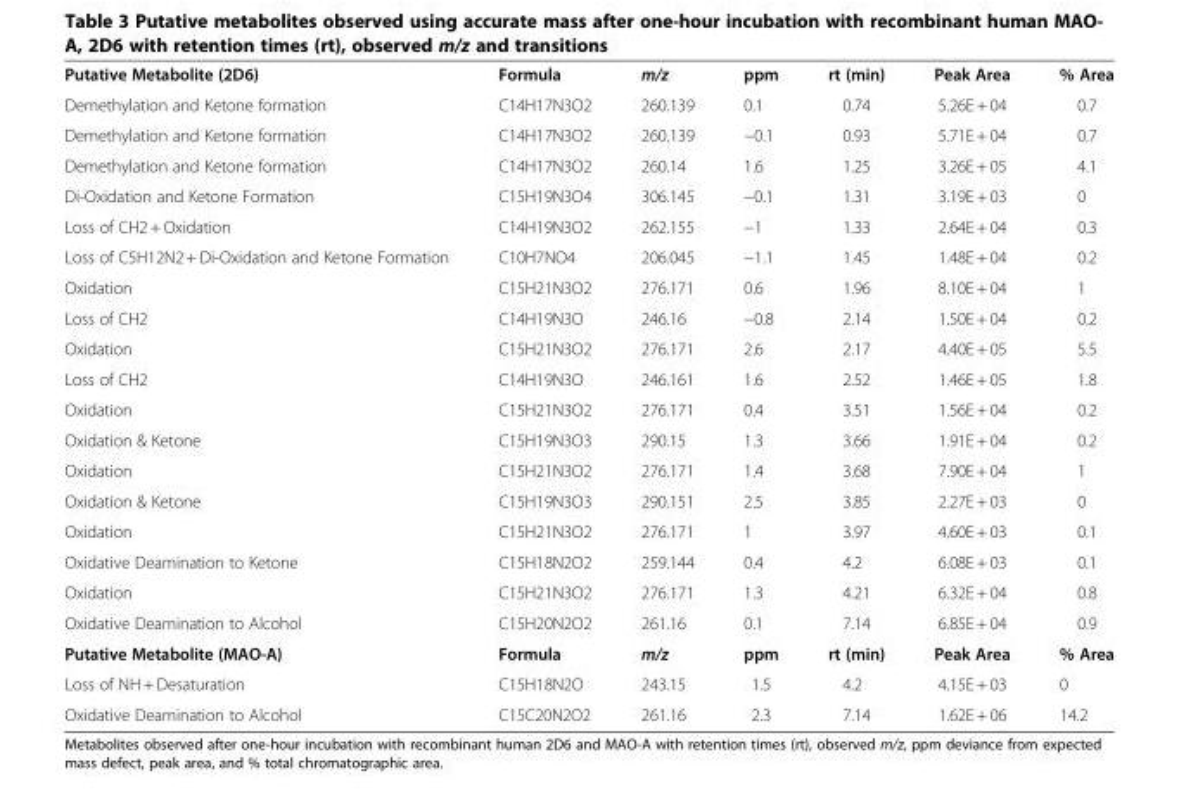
<table><tbody><tr><td>Putative Metabolite (2D6)</td><td>Formula</td><td>m/z</td><td>ppm</td><td>rt (min)</td><td>Peak Area</td><td>% Area</td></tr><tr><td>Demethylation and Ketone formation</td><td>C14H17N3O2</td><td>260.139</td><td>0.1</td><td>0.74</td><td>5.26E + 04</td><td>0.7</td></tr><tr><td>Demethylation and Ketone formation</td><td>C14H17N3O2</td><td>260.139</td><td>−0.1</td><td>0.93</td><td>5.71E + 04</td><td>0.7</td></tr><tr><td>Demethylation and Ketone formation</td><td>C14H17N3O2</td><td>260.14</td><td>1.6</td><td>1.25</td><td>3.26E + 05</td><td>4.1</td></tr><tr><td>Di-Oxidation and Ketone Formation</td><td>C15H19N3O4</td><td>306.145</td><td>−0.1</td><td>1.31</td><td>3.19E + 03</td><td>0</td></tr><tr><td>Loss of CH2 + Oxidation</td><td>C14H19N3O2</td><td>262.155</td><td>−1</td><td>1.33</td><td>2.64E + 04</td><td>0.3</td></tr><tr><td>Loss of C5H12N2 + Di-Oxidation and Ketone Formation</td><td>C10H7NO4</td><td>206.045</td><td>−1.1</td><td>1.45</td><td>1.48E + 04</td><td>0.2</td></tr><tr><td>Oxidation</td><td>C15H21N3O2</td><td>276.171</td><td>0.6</td><td>1.96</td><td>8.10E + 04</td><td>1</td></tr><tr><td>Loss of CH2</td><td>C14H19N3O</td><td>246.16</td><td>−0.8</td><td>2.14</td><td>1.50E + 04</td><td>0.2</td></tr><tr><td>Oxidation</td><td>C15H21N3O2</td><td>276.171</td><td>2.6</td><td>2.17</td><td>4.40E + 05</td><td>5.5</td></tr><tr><td>Loss of CH2</td><td>C14H19N3O</td><td>246.161</td><td>1.6</td><td>2.52</td><td>1.46E + 05</td><td>1.8</td></tr><tr><td>Oxidation</td><td>C15H21N3O2</td><td>276.171</td><td>0.4</td><td>3.51</td><td>1.56E + 04</td><td>0.2</td></tr><tr><td>Oxidation &amp; Ketone</td><td>C15H19N3O3</td><td>290.15</td><td>1.3</td><td>3.66</td><td>1.91E + 04</td><td>0.2</td></tr><tr><td>Oxidation</td><td>C15H21N3O2</td><td>276.171</td><td>1.4</td><td>3.68</td><td>7.90E + 04</td><td>1</td></tr><tr><td>Oxidation &amp; Ketone</td><td>C15H19N3O3</td><td>290.151</td><td>2.5</td><td>3.85</td><td>2.27E + 03</td><td>0</td></tr><tr><td>Oxidation</td><td>C15H21N3O2</td><td>276.171</td><td>1</td><td>3.97</td><td>4.60E + 03</td><td>0.1</td></tr><tr><td>Oxidative Deamination to Ketone</td><td>C15H18N2O2</td><td>259.144</td><td>0.4</td><td>4.2</td><td>6.08E + 03</td><td>0.1</td></tr><tr><td>Oxidation</td><td>C15H21N3O2</td><td>276.171</td><td>1.3</td><td>4.21</td><td>6.32E + 04</td><td>0.8</td></tr><tr><td>Oxidative Deamination to Alcohol</td><td>C15H20N2O2</td><td>261.16</td><td>0.1</td><td>7.14</td><td>6.85E + 04</td><td>0.9</td></tr><tr><td>Putative Metabolite (MAO-A)</td><td>Formula</td><td>m/z</td><td>ppm</td><td>rt (min)</td><td>Peak Area</td><td>% Area</td></tr><tr><td>Loss of NH + Desaturation</td><td>C15H18N2O</td><td>243.15</td><td>1.5</td><td>4.2</td><td>4.15E + 03</td><td>0</td></tr><tr><td>Oxidative Deamination to Alcohol</td><td>C15C20N2O2</td><td>261.16</td><td>2.3</td><td>7.14</td><td>1.62E + 06</td><td>14.2</td></tr></tbody></table>